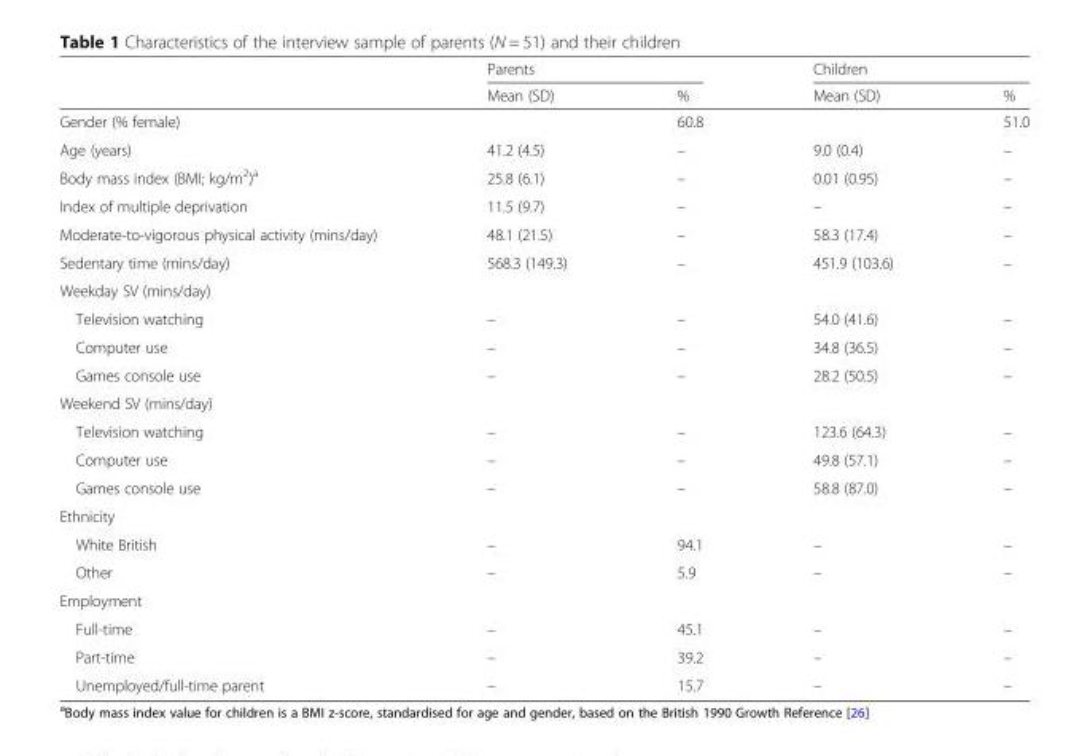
<table><thead><tr><td rowspan="2"></td><td colspan="2">Parents</td><td colspan="2">Children</td></tr><tr><td>Mean (SD)</td><td>%</td><td>Mean (SD)</td><td>%</td></tr></thead><tbody><tr><td>Gender (% female)</td><td></td><td>60.8</td><td></td><td>51.0</td></tr><tr><td>Age (years)</td><td>41.2 (4.5)</td><td>–</td><td>9.0 (0.4)</td><td>–</td></tr><tr><td>Body mass index (BMI; kg/m<sup>2</sup>)<sup>a</sup></td><td>25.8 (6.1)</td><td>–</td><td>0.01 (0.95)</td><td>–</td></tr><tr><td>Index of multiple deprivation</td><td>11.5 (9.7)</td><td>–</td><td>–</td><td>–</td></tr><tr><td>Moderate-to-vigorous physical activity (mins/day)</td><td>48.1 (21.5)</td><td>–</td><td>58.3 (17.4)</td><td>–</td></tr><tr><td>Sedentary time (mins/day)</td><td>568.3 (149.3)</td><td>–</td><td>451.9 (103.6)</td><td>–</td></tr><tr><td colspan="5">Weekday SV (mins/day)</td></tr><tr><td>Television watching</td><td>–</td><td>–</td><td>54.0 (41.6)</td><td>–</td></tr><tr><td>Computer use</td><td>–</td><td>–</td><td>34.8 (36.5)</td><td>–</td></tr><tr><td>Games console use</td><td>–</td><td>–</td><td>28.2 (50.5)</td><td>–</td></tr><tr><td colspan="5">Weekend SV (mins/day)</td></tr><tr><td>Television watching</td><td>–</td><td>–</td><td>123.6 (64.3)</td><td>–</td></tr><tr><td>Computer use</td><td>–</td><td>–</td><td>49.8 (57.1)</td><td>–</td></tr><tr><td>Games console use</td><td>–</td><td>–</td><td>58.8 (87.0)</td><td>–</td></tr><tr><td colspan="5">Ethnicity</td></tr><tr><td>White British</td><td>–</td><td>94.1</td><td>–</td><td>–</td></tr><tr><td>Other</td><td>–</td><td>5.9</td><td>–</td><td>–</td></tr><tr><td colspan="5">Employment</td></tr><tr><td>Full-time</td><td>–</td><td>45.1</td><td>–</td><td>–</td></tr><tr><td>Part-time</td><td>–</td><td>39.2</td><td>–</td><td>–</td></tr><tr><td>Unemployed/full-time parent</td><td>–</td><td>15.7</td><td>–</td><td>–</td></tr></tbody></table>